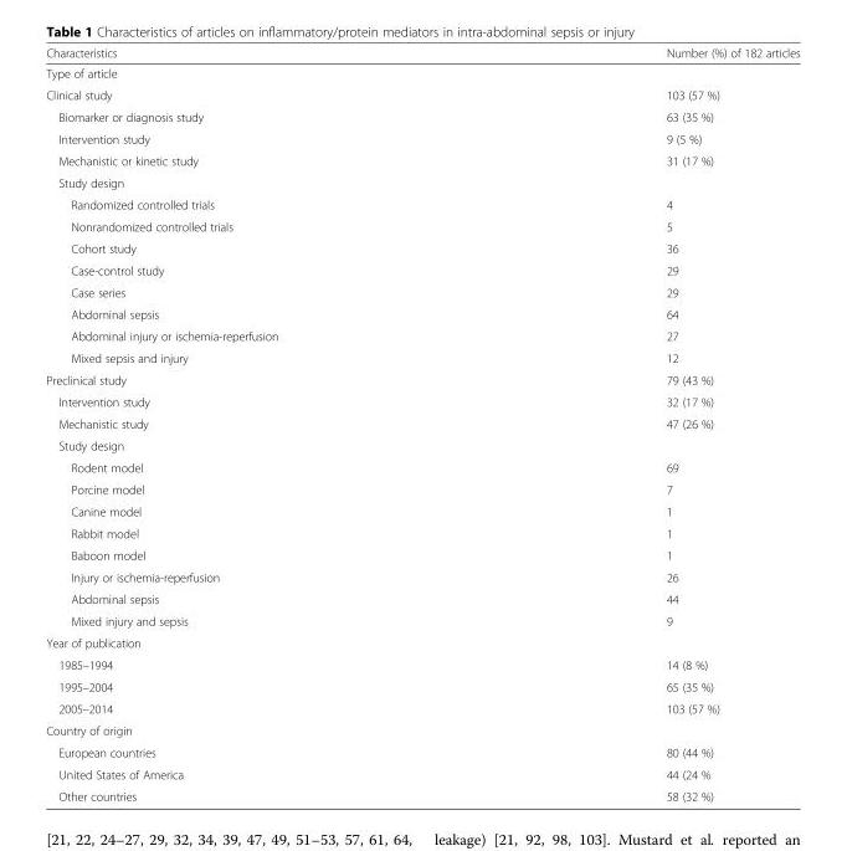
<table><thead><tr><td>Characteristics</td><td>Number (%) of 182 articles</td></tr></thead><tbody><tr><td colspan="2">Type of article</td></tr><tr><td>Clinical study</td><td>103 (57 %)</td></tr><tr><td>Biomarker or diagnosis study</td><td>63 (35 %)</td></tr><tr><td>Intervention study</td><td>9 (5 %)</td></tr><tr><td>Mechanistic or kinetic study</td><td>31 (17 %)</td></tr><tr><td colspan="2">Study design</td></tr><tr><td>Randomized controlled trials</td><td>4</td></tr><tr><td>Nonrandomized controlled trials</td><td>5</td></tr><tr><td>Cohort study</td><td>36</td></tr><tr><td>Case-control study</td><td>29</td></tr><tr><td>Case series</td><td>29</td></tr><tr><td>Abdominal sepsis</td><td>64</td></tr><tr><td>Abdominal injury or ischemia-reperfusion</td><td>27</td></tr><tr><td>Mixed sepsis and injury</td><td>12</td></tr><tr><td>Preclinical study</td><td>79 (43 %)</td></tr><tr><td>Intervention study</td><td>32 (17 %)</td></tr><tr><td>Mechanistic study</td><td>47 (26 %)</td></tr><tr><td colspan="2">Study design</td></tr><tr><td>Rodent model</td><td>69</td></tr><tr><td>Porcine model</td><td>7</td></tr><tr><td>Canine model</td><td>1</td></tr><tr><td>Rabbit model</td><td>1</td></tr><tr><td>Baboon model</td><td>1</td></tr><tr><td>Injury or ischemia-reperfusion</td><td>26</td></tr><tr><td>Abdominal sepsis</td><td>44</td></tr><tr><td>Mixed injury and sepsis</td><td>9</td></tr><tr><td colspan="2">Year of publication</td></tr><tr><td>1985–1994</td><td>14 (8 %)</td></tr><tr><td>1995–2004</td><td>65 (35 %)</td></tr><tr><td>2005–2014</td><td>103 (57 %)</td></tr><tr><td colspan="2">Country of origin</td></tr><tr><td>European countries</td><td>80 (44 %)</td></tr><tr><td>United States of America</td><td>44 (24 %</td></tr><tr><td>Other countries</td><td>58 (32 %)</td></tr></tbody></table>